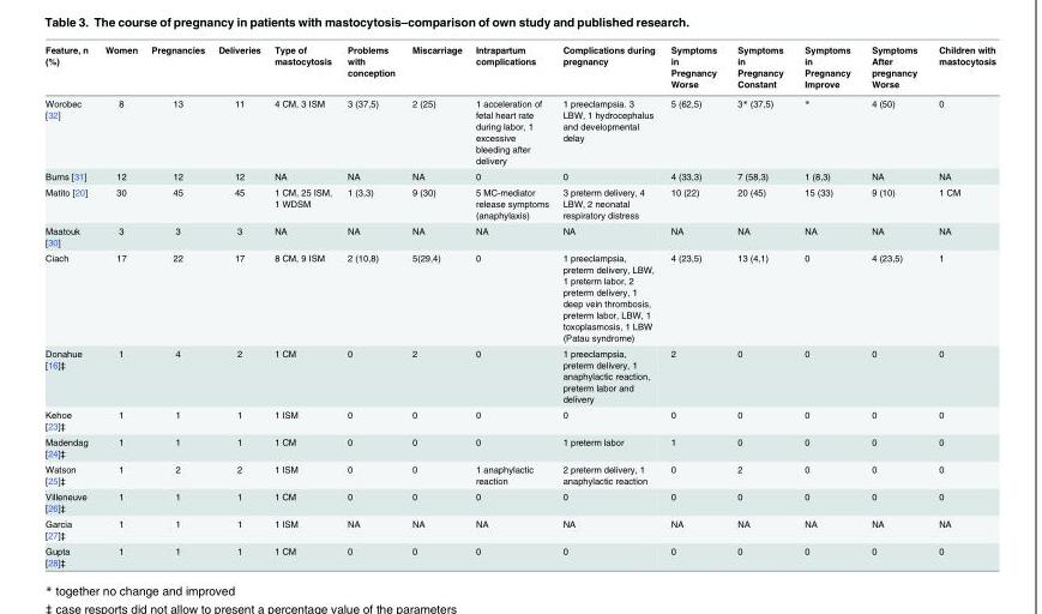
<table><thead><tr><td>Feature, n (%)</td><td>Women</td><td>Pregnancies</td><td>Deliveries</td><td>Type of mastocytosis</td><td>Problems with conception</td><td>Miscarriage</td><td>Intrapartum complications</td><td>Complications during pregnancy</td><td>Symptoms in Pregnancy Worse</td><td>Symptoms in Pregnancy Constant</td><td>Symptoms in Pregnancy Improve</td><td>Symptoms After pregnancy Worse</td><td>Children with mastocytosis</td></tr></thead><tbody><tr><td>Worobec [32]</td><td>8</td><td>13</td><td>11</td><td>4 CM, 3 ISM</td><td>3 (37,5)</td><td>2 (25)</td><td>1 acceleration of fetal heart rate during labor, 1 excessive bleeding after delivery</td><td>1 preeclampsia. 3 LBW, 1 hydrocephalus and developmental delay</td><td>5 (62,5)</td><td>3* (37,5)</td><td>*</td><td>4 (50)</td><td>0</td></tr><tr><td>Burns [31]</td><td>12</td><td>12</td><td>12</td><td>NA</td><td>NA</td><td>NA</td><td>0</td><td>0</td><td>4 (33,3)</td><td>7 (58,3)</td><td>1 (8,3)</td><td>NA</td><td>NA</td></tr><tr><td>Matito [20]</td><td>30</td><td>45</td><td>45</td><td>1 CM, 25 ISM, 1 WDSM</td><td>1 (3,3)</td><td>9 (30)</td><td>5 MC-mediator release symptoms (anaphylaxis)</td><td>3 preterm delivery, 4 LBW, 2 neonatal respiratory distress</td><td>10 (22)</td><td>20 (45)</td><td>15 (33)</td><td>9 (10)</td><td>1 CM</td></tr><tr><td>Maatouk [30]</td><td>3</td><td>3</td><td>3</td><td>NA</td><td>NA</td><td>NA</td><td>NA</td><td>NA</td><td>NA</td><td>NA</td><td>NA</td><td>NA</td><td>NA</td></tr><tr><td>Ciach</td><td>17</td><td>22</td><td>17</td><td>8 CM, 9 ISM</td><td>2 (10,8)</td><td>5(29,4)</td><td>0</td><td>1 preeclampsia, preterm delivery, LBW, 1 preterm labor, 2 preterm delivery, 1 deep vein thrombosis, preterm labor, LBW, 1 toxoplasmosis, 1 LBW (Patau syndrome)</td><td>4 (23,5)</td><td>13 (4,1)</td><td>0</td><td>4 (23,5)</td><td>1</td></tr><tr><td>Donahue [16]‡</td><td>1</td><td>4</td><td>2</td><td>1 CM</td><td>0</td><td>2</td><td>0</td><td>1 preeclampsia, preterm delivery, 1 anaphylactic reaction, preterm labor and delivery</td><td>2</td><td>0</td><td>0</td><td>0</td><td>0</td></tr><tr><td>Kehoe [23]‡</td><td>1</td><td>1</td><td>1</td><td>1 ISM</td><td>0</td><td>0</td><td>0</td><td>0</td><td>0</td><td>0</td><td>0</td><td>0</td><td>0</td></tr><tr><td>Madendag [24]‡</td><td>1</td><td>1</td><td>1</td><td>1 CM</td><td>0</td><td>0</td><td>0</td><td>1 preterm labor</td><td>1</td><td>0</td><td>0</td><td>0</td><td>0</td></tr><tr><td>Watson [25]‡</td><td>1</td><td>2</td><td>2</td><td>1 ISM</td><td>0</td><td>0</td><td>1 anaphylactic reaction</td><td>2 preterm delivery, 1 anaphylactic reaction</td><td>0</td><td>2</td><td>0</td><td>0</td><td>0</td></tr><tr><td>Villeneuve [26]‡</td><td>1</td><td>1</td><td>1</td><td>1 CM</td><td>0</td><td>0</td><td>0</td><td>0</td><td>0</td><td>0</td><td>0</td><td>0</td><td>0</td></tr><tr><td>Garcia [27]‡</td><td>1</td><td>1</td><td>1</td><td>1 ISM</td><td>NA</td><td>NA</td><td>NA</td><td>NA</td><td>NA</td><td>NA</td><td>NA</td><td>NA</td><td>NA</td></tr><tr><td>Gupta [28]‡</td><td>1</td><td>1</td><td>1</td><td>1 CM</td><td>0</td><td>0</td><td>0</td><td>0</td><td>0</td><td>0</td><td>0</td><td>0</td><td>0</td></tr></tbody></table>